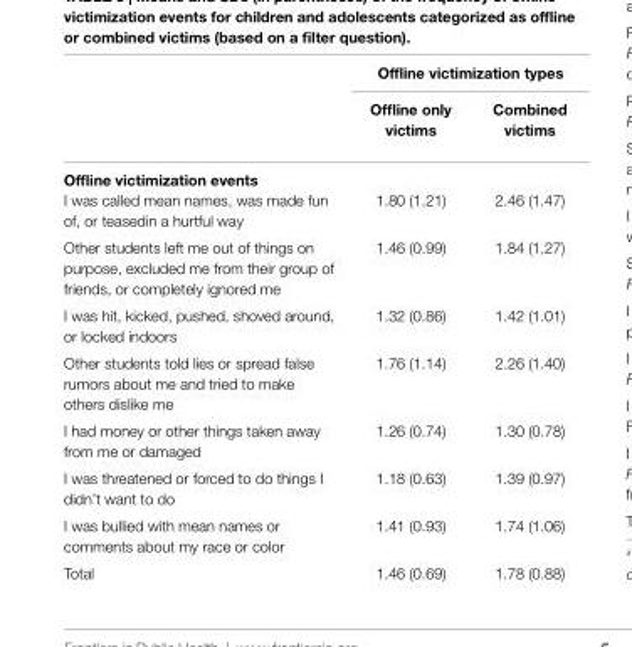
<table><thead><tr><td rowspan="2"></td><td colspan="2">Offline victimization types</td></tr><tr><td>Offline only victims</td><td>combined victims</td></tr></thead><tbody><tr><td colspan="3">Offline victimization events</td></tr><tr><td>I was called mean names, was made fun of, or teasedin a hurtful way</td><td>1.80 (1.21)</td><td>2.46 (1.47)</td></tr><tr><td>Other students left me out of things on purpose, excluded me from their group of friends, or completely ignored me</td><td>1.46 (0.99)</td><td>1.84 (1.27)</td></tr><tr><td>I was hit, kicked, pushed, shoved around, or locked indoors</td><td>1.32 (0.86)</td><td>1.42 (1.01)</td></tr><tr><td>Other students told lies or spread false rumors about me and tried to make others dislike me</td><td>1.76 (1.14)</td><td>2.26 (1.40)</td></tr><tr><td>I had money or other things taken away from me or damaged</td><td>1.26 (0.74)</td><td>1.30 (0.78)</td></tr><tr><td>I was threatened or forced to do things I didn’t want to do</td><td>1.18 (0.63)</td><td>1.39 (0.97)</td></tr><tr><td>I was bullied with mean names or comments about my race or color</td><td>1.41 (0.93)</td><td>1.74 (1.06)</td></tr><tr><td>Total</td><td>1.46 (0.69)</td><td>1.78 (0.88)</td></tr></tbody></table>